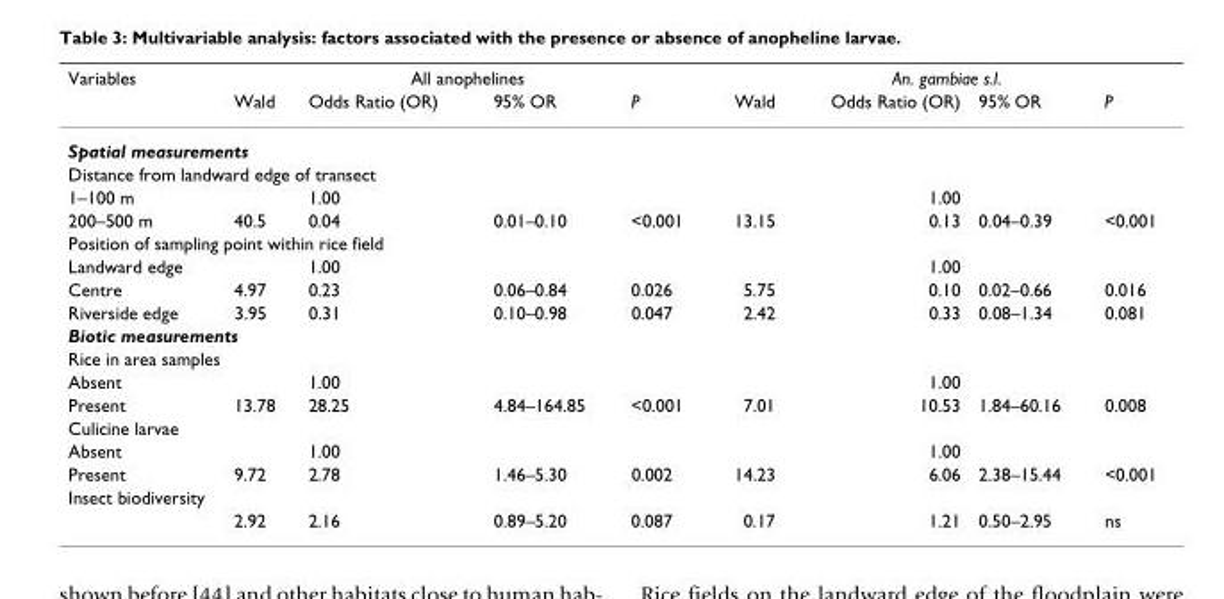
<table><thead><tr><td rowspan="2">Variables</td><td colspan="4">All anophelines</td><td colspan="4">An. gambiae s.l.</td></tr><tr><td>Wald</td><td>Odds Ratio (OR)</td><td>95% OR</td><td>P</td><td>Wald</td><td>Odds Ratio (OR)</td><td>95% OR</td><td>P</td></tr></thead><tbody><tr><td colspan="9">Spatial measurements</td></tr><tr><td colspan="9">Distance from landward edge of transect</td></tr><tr><td>1–100 m</td><td></td><td>1.00</td><td></td><td></td><td></td><td>1.00</td><td></td><td></td></tr><tr><td>200–500 m</td><td>40.5</td><td>0.04</td><td>0.01–0.10</td><td>&lt;0.001</td><td>13.15</td><td>0.13</td><td>0.04–0.39</td><td>&lt;0.001</td></tr><tr><td colspan="9">Position of sampling point within rice field</td></tr><tr><td>Landward edge</td><td></td><td>1.00</td><td></td><td></td><td></td><td>1.00</td><td></td><td></td></tr><tr><td>Centre</td><td>4.97</td><td>0.23</td><td>0.06–0.84</td><td>0.026</td><td>5.75</td><td>0.10</td><td>0.02–0.66</td><td>0.016</td></tr><tr><td>Riverside edge</td><td>3.95</td><td>0.31</td><td>0.10–0.98</td><td>0.047</td><td>2.42</td><td>0.33</td><td>0.08–1.34</td><td>0.081</td></tr><tr><td colspan="9">Biotic measurements</td></tr><tr><td colspan="9">Rice in area samples</td></tr><tr><td>Absent</td><td></td><td>1.00</td><td></td><td></td><td></td><td>1.00</td><td></td><td></td></tr><tr><td>Present</td><td>13.78</td><td>28.25</td><td>4.84–164.85</td><td>&lt;0.001</td><td>7.01</td><td>10.53</td><td>1.84–60.16</td><td>0.008</td></tr><tr><td colspan="9">Culicine larvae</td></tr><tr><td>Absent</td><td></td><td>1.00</td><td></td><td></td><td></td><td>1.00</td><td></td><td></td></tr><tr><td>Present</td><td>9.72</td><td>2.78</td><td>1.46–5.30</td><td>0.002</td><td>14.23</td><td>6.06</td><td>2.38–15.44</td><td>&lt;0.001</td></tr><tr><td colspan="9">Insect biodiversity</td></tr><tr><td></td><td>2.92</td><td>2.16</td><td>0.89–5.20</td><td>0.087</td><td>0.17</td><td>1.21</td><td>0.50–2.95</td><td>ns</td></tr></tbody></table>